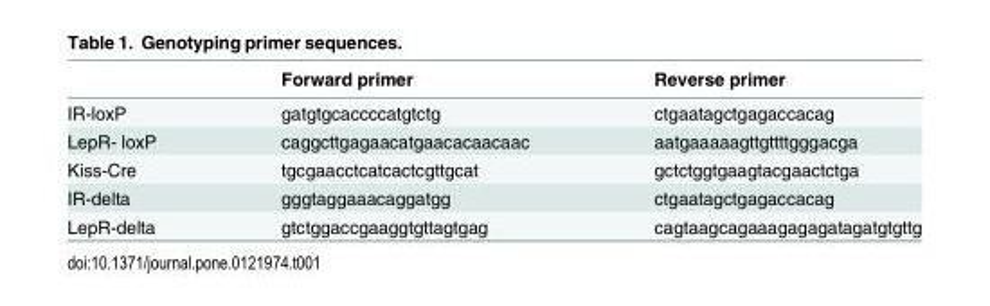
<table><thead><tr><td></td><td>Forward primer</td><td>Reverse primer</td></tr></thead><tbody><tr><td>IR-loxP</td><td>gatgtgcaccccatgtctg</td><td>ctgaatagctgagaccacag</td></tr><tr><td>LepR- loxP</td><td>caggcttgagaacatgaacacaacaac</td><td>aatgaaaaagttgttttgggacga</td></tr><tr><td>Kiss-Cre</td><td>tgcgaacctcatcactcgttgcat</td><td>gctctggtgaagtacgaactctga</td></tr><tr><td>IR-delta</td><td>gggtaggaaacaggatgg</td><td>ctgaatagctgagaccacag</td></tr><tr><td>LepR-delta</td><td>gtctggaccgaaggtgttagtgag</td><td>cagtaagcagaaagagagatagatgtgttg</td></tr></tbody></table>